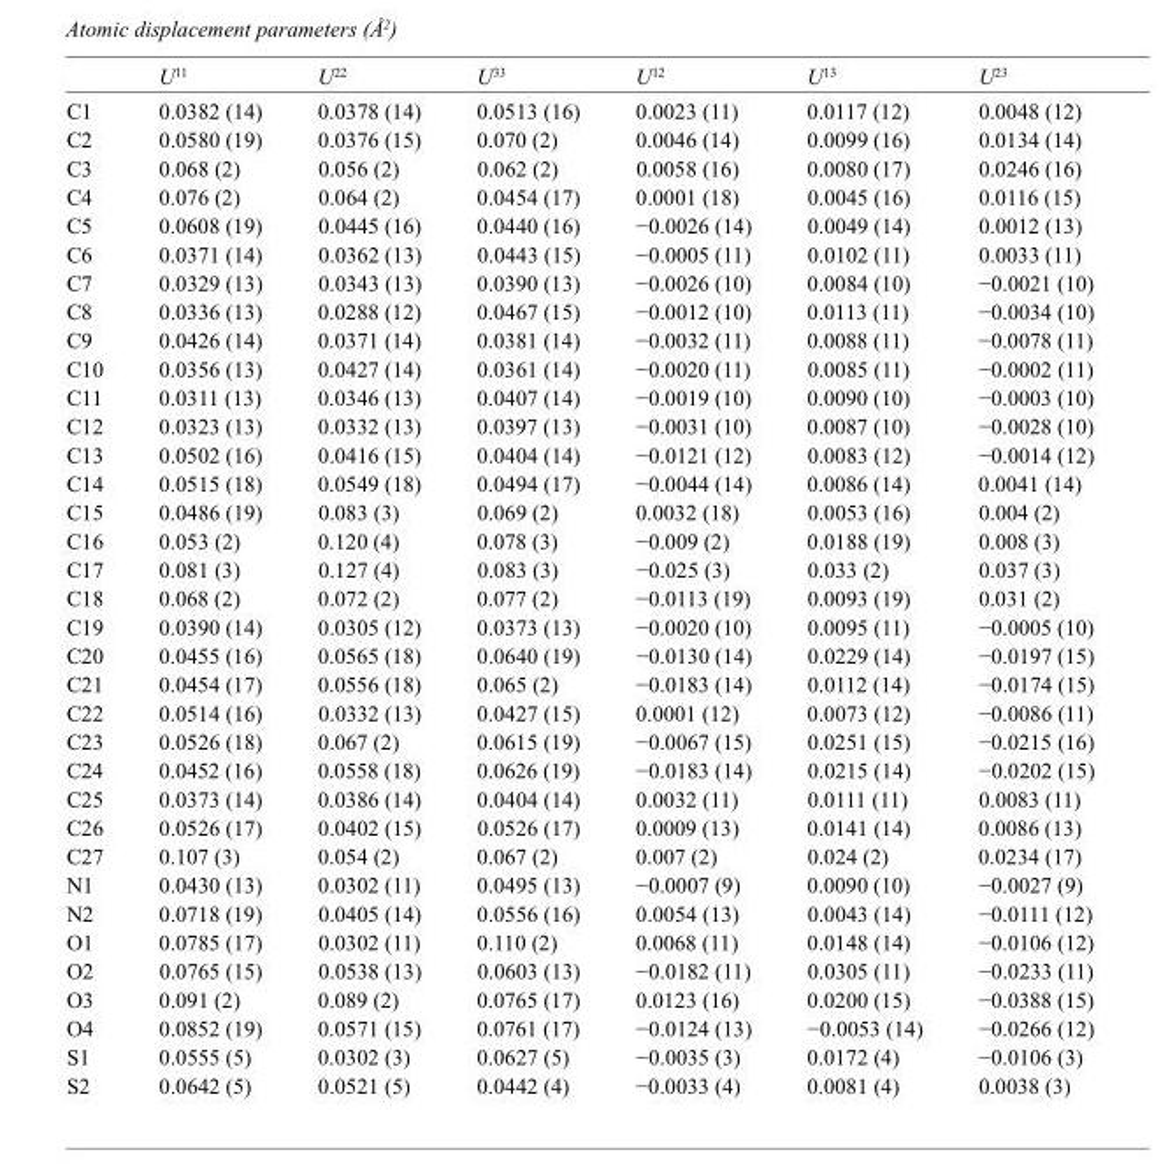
<table><thead><tr><td></td><td>U<sup>11</sup></td><td>U<sup>22</sup></td><td>U<sup>33</sup></td><td>U<sup>12</sup></td><td>U<sup>13</sup></td><td>U<sup>23</sup></td></tr></thead><tbody><tr><td>C1</td><td>0.0382 (14)</td><td>0.0378 (14)</td><td>0.0513 (16)</td><td>0.0023 (11)</td><td>0.0117 (12)</td><td>0.0048 (12)</td></tr><tr><td>C2</td><td>0.0580 (19)</td><td>0.0376 (15)</td><td>0.070 (2)</td><td>0.0046 (14)</td><td>0.0099 (16)</td><td>0.0134 (14)</td></tr><tr><td>C3</td><td>0.068 (2)</td><td>0.056 (2)</td><td>0.062 (2)</td><td>0.0058 (16)</td><td>0.0080 (17)</td><td>0.0246 (16)</td></tr><tr><td>C4</td><td>0.076 (2)</td><td>0.064 (2)</td><td>0.0454 (17)</td><td>0.0001 (18)</td><td>0.0045 (16)</td><td>0.0116 (15)</td></tr><tr><td>C5</td><td>0.0608 (19)</td><td>0.0445 (16)</td><td>0.0440 (16)</td><td>−0.0026 (14)</td><td>0.0049 (14)</td><td>0.0012 (13)</td></tr><tr><td>C6</td><td>0.0371 (14)</td><td>0.0362 (13)</td><td>0.0443 (15)</td><td>−0.0005 (11)</td><td>0.0102 (11)</td><td>0.0033 (11)</td></tr><tr><td>C7</td><td>0.0329 (13)</td><td>0.0343 (13)</td><td>0.0390 (13)</td><td>−0.0026 (10)</td><td>0.0084 (10)</td><td>−0.0021 (10)</td></tr><tr><td>C8</td><td>0.0336 (13)</td><td>0.0288 (12)</td><td>0.0467 (15)</td><td>−0.0012 (10)</td><td>0.0113 (11)</td><td>−0.0034 (10)</td></tr><tr><td>C9</td><td>0.0426 (14)</td><td>0.0371 (14)</td><td>0.0381 (14)</td><td>−0.0032 (11)</td><td>0.0088 (11)</td><td>−0.0078 (11)</td></tr><tr><td>C10</td><td>0.0356 (13)</td><td>0.0427 (14)</td><td>0.0361 (14)</td><td>−0.0020 (11)</td><td>0.0085 (11)</td><td>−0.0002 (11)</td></tr><tr><td>C11</td><td>0.0311 (13)</td><td>0.0346 (13)</td><td>0.0407 (14)</td><td>−0.0019 (10)</td><td>0.0090 (10)</td><td>−0.0003 (10)</td></tr><tr><td>C12</td><td>0.0323 (13)</td><td>0.0332 (13)</td><td>0.0397 (13)</td><td>−0.0031 (10)</td><td>0.0087 (10)</td><td>−0.0028 (10)</td></tr><tr><td>C13</td><td>0.0502 (16)</td><td>0.0416 (15)</td><td>0.0404 (14)</td><td>−0.0121 (12)</td><td>0.0083 (12)</td><td>−0.0014 (12)</td></tr><tr><td>C14</td><td>0.0515 (18)</td><td>0.0549 (18)</td><td>0.0494 (17)</td><td>−0.0044 (14)</td><td>0.0086 (14)</td><td>0.0041 (14)</td></tr><tr><td>C15</td><td>0.0486 (19)</td><td>0.083 (3)</td><td>0.069 (2)</td><td>0.0032 (18)</td><td>0.0053 (16)</td><td>0.004 (2)</td></tr><tr><td>C16</td><td>0.053 (2)</td><td>0.120 (4)</td><td>0.078 (3)</td><td>−0.009 (2)</td><td>0.0188 (19)</td><td>0.008 (3)</td></tr><tr><td>C17</td><td>0.081 (3)</td><td>0.127 (4)</td><td>0.083 (3)</td><td>−0.025 (3)</td><td>0.033 (2)</td><td>0.037 (3)</td></tr><tr><td>C18</td><td>0.068 (2)</td><td>0.072 (2)</td><td>0.077 (2)</td><td>−0.0113 (19)</td><td>0.0093 (19)</td><td>0.031 (2)</td></tr><tr><td>C19</td><td>0.0390 (14)</td><td>0.0305 (12)</td><td>0.0373 (13)</td><td>−0.0020 (10)</td><td>0.0095 (11)</td><td>−0.0005 (10)</td></tr><tr><td>C20</td><td>0.0455 (16)</td><td>0.0565 (18)</td><td>0.0640 (19)</td><td>−0.0130 (14)</td><td>0.0229 (14)</td><td>−0.0197 (15)</td></tr><tr><td>C21</td><td>0.0454 (17)</td><td>0.0556 (18)</td><td>0.065 (2)</td><td>−0.0183 (14)</td><td>0.0112 (14)</td><td>−0.0174 (15)</td></tr><tr><td>C22</td><td>0.0514 (16)</td><td>0.0332 (13)</td><td>0.0427 (15)</td><td>0.0001 (12)</td><td>0.0073 (12)</td><td>−0.0086 (11)</td></tr><tr><td>C23</td><td>0.0526 (18)</td><td>0.067 (2)</td><td>0.0615 (19)</td><td>−0.0067 (15)</td><td>0.0251 (15)</td><td>−0.0215 (16)</td></tr><tr><td>C24</td><td>0.0452 (16)</td><td>0.0558 (18)</td><td>0.0626 (19)</td><td>−0.0183 (14)</td><td>0.0215 (14)</td><td>−0.0202 (15)</td></tr><tr><td>C25</td><td>0.0373 (14)</td><td>0.0386 (14)</td><td>0.0404 (14)</td><td>0.0032 (11)</td><td>0.0111 (11)</td><td>0.0083 (11)</td></tr><tr><td>C26</td><td>0.0526 (17)</td><td>0.0402 (15)</td><td>0.0526 (17)</td><td>0.0009 (13)</td><td>0.0141 (14)</td><td>0.0086 (13)</td></tr><tr><td>C27</td><td>0.107 (3)</td><td>0.054 (2)</td><td>0.067 (2)</td><td>0.007 (2)</td><td>0.024 (2)</td><td>0.0234 (17)</td></tr><tr><td>N1</td><td>0.0430 (13)</td><td>0.0302 (11)</td><td>0.0495 (13)</td><td>−0.0007 (9)</td><td>0.0090 (10)</td><td>−0.0027 (9)</td></tr><tr><td>N2</td><td>0.0718 (19)</td><td>0.0405 (14)</td><td>0.0556 (16)</td><td>0.0054 (13)</td><td>0.0043 (14)</td><td>−0.0111 (12)</td></tr><tr><td>O1</td><td>0.0785 (17)</td><td>0.0302 (11)</td><td>0.110 (2)</td><td>0.0068 (11)</td><td>0.0148 (14)</td><td>−0.0106 (12)</td></tr><tr><td>O2</td><td>0.0765 (15)</td><td>0.0538 (13)</td><td>0.0603 (13)</td><td>−0.0182 (11)</td><td>0.0305 (11)</td><td>−0.0233 (11)</td></tr><tr><td>O3</td><td>0.091 (2)</td><td>0.089 (2)</td><td>0.0765 (17)</td><td>0.0123 (16)</td><td>0.0200 (15)</td><td>−0.0388 (15)</td></tr><tr><td>O4</td><td>0.0852 (19)</td><td>0.0571 (15)</td><td>0.0761 (17)</td><td>−0.0124 (13)</td><td>−0.0053 (14)</td><td>−0.0266 (12)</td></tr><tr><td>S1</td><td>0.0555 (5)</td><td>0.0302 (3)</td><td>0.0627 (5)</td><td>−0.0035 (3)</td><td>0.0172 (4)</td><td>−0.0106 (3)</td></tr><tr><td>S2</td><td>0.0642 (5)</td><td>0.0521 (5)</td><td>0.0442 (4)</td><td>−0.0033 (4)</td><td>0.0081 (4)</td><td>0.0038 (3)</td></tr></tbody></table>